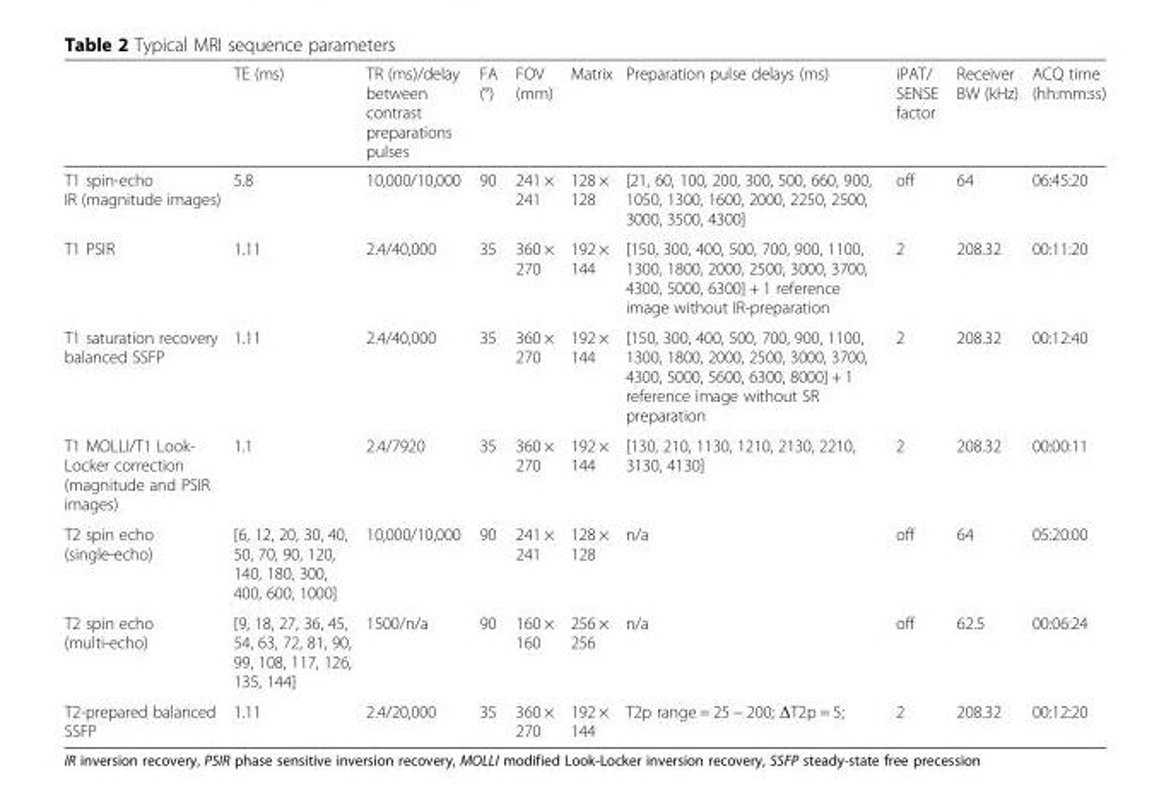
<table><thead><tr><td></td><td>TE (ms)</td><td>TR (ms)/delay between contrast preparations pulses</td><td>FA (°)</td><td>FOV (mm)</td><td>Matrix</td><td>Preparation pulse delays (ms)</td><td>iPAT/ SENSE factor</td><td>Receiver BW (kHz)</td><td>ACQ time (hh:mm:ss)</td></tr></thead><tbody><tr><td>T1 spin-echo IR (magnitude images)</td><td>5.8</td><td>10,000/10,000</td><td>90</td><td>241 × 241</td><td>128 × 128</td><td>[21, 60, 100, 200, 300, 500, 660, 900, 1050, 1300, 1600, 2000, 2250, 2500, 3000, 3500, 4300]</td><td>off</td><td>64</td><td>06:45:20</td></tr><tr><td>T1 PSIR</td><td>1.11</td><td>2.4/40,000</td><td>35</td><td>360 × 270</td><td>192 × 144</td><td>[150, 300, 400, 500, 700, 900, 1100, 1300, 1800, 2000, 2500, 3000, 3700, 4300, 5000, 6300] + 1 reference image without IR-preparation</td><td>2</td><td>208.32</td><td>00:11:20</td></tr><tr><td>T1 saturation recovery balanced SSFP</td><td>1.11</td><td>2.4/40,000</td><td>35</td><td>360 × 270</td><td>192 × 144</td><td>[150, 300, 400, 500, 700, 900, 1100, 1300, 1800, 2000, 2500, 3000, 3700, 4300, 5000, 5600, 6300, 8000] + 1 reference image without SR preparation</td><td>2</td><td>208.32</td><td>00:12:40</td></tr><tr><td>T1 MOLLI/T1 Look- Locker correction (magnitude and PSIR images)</td><td>1.1</td><td>2.4/7920</td><td>35</td><td>360 × 270</td><td>192 × 144</td><td>[130, 210, 1130, 1210, 2130, 2210, 3130, 4130]</td><td>2</td><td>208.32</td><td>00:00:11</td></tr><tr><td>T2 spin echo (single-echo)</td><td>[6, 12, 20, 30, 40, 50, 70, 90, 120, 140, 180, 300, 400, 600, 1000]</td><td>10,000/10,000</td><td>90</td><td>241 × 241</td><td>128 × 128</td><td>n/a</td><td>off</td><td>64</td><td>05:20:00</td></tr><tr><td>T2 spin echo (multi-echo)</td><td>[9, 18, 27, 36, 45, 54, 63, 72, 81, 90, 99, 108, 117, 126, 135, 144]</td><td>1500/n/a</td><td>90</td><td>160 × 160</td><td>256 × 256</td><td>n/a</td><td>off</td><td>62.5</td><td>00:06:24</td></tr><tr><td>T2-prepared balanced SSFP</td><td>1.11</td><td>2.4/20,000</td><td>35</td><td>360 × 270</td><td>192 × 144</td><td>T2p range = 25 − 200; ΔT2p = 5;</td><td>2</td><td>208.32</td><td>00:12:20</td></tr></tbody></table>